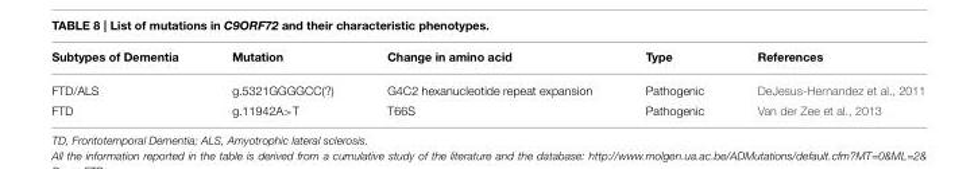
<table><thead><tr><td>Subtypes of Dementia</td><td>Mutation</td><td>Change in amino acid</td><td>Type</td><td>References</td></tr></thead><tbody><tr><td>FTD/ALS</td><td>g.5321GGGGCC(?)</td><td>G4C2 hexanucleotide repeat expansion</td><td>Pathogenic</td><td>DeJesus-Hernandez et al., 2011</td></tr><tr><td>FTD</td><td>g.11942A&gt;T</td><td>T66S</td><td>Pathogenic</td><td>Van der Zee et al., 2013</td></tr></tbody></table>